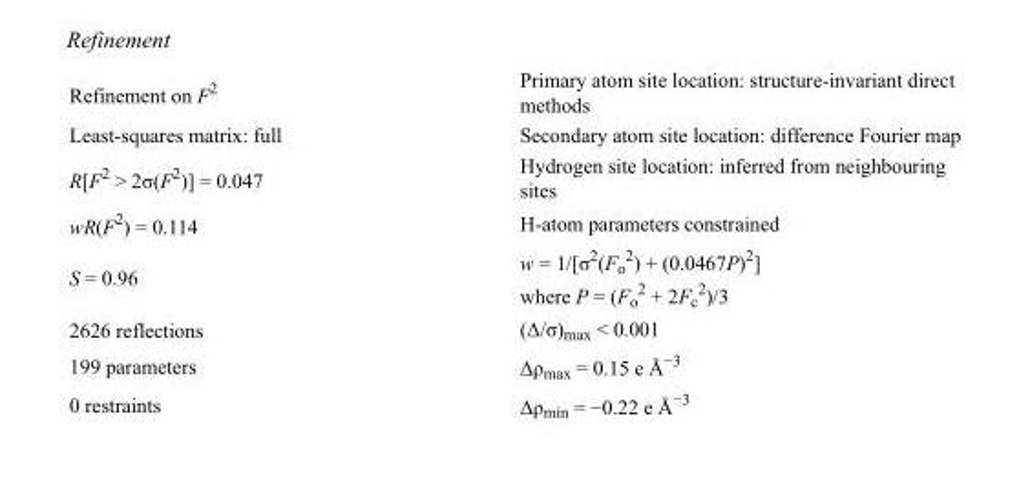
<table><tbody><tr><td>Refinement on F<sup>2</sup></td><td>Primary atom site location: structure-invariant direct methods</td></tr><tr><td>Least-squares matrix: full</td><td>Secondary atom site location: difference Fourier map</td></tr><tr><td>R[F<sup>2</sup> &gt; 2σ(F<sup>2</sup>)] = 0.047</td><td>Hydrogen site location: inferred from neighbouring sites</td></tr><tr><td>wR(F<sup>2</sup>) = 0.114</td><td>H-atom parameters constrained</td></tr><tr><td>S = 0.96</td><td>w = 1/[σ<sup>2</sup>(F<sub>o</sub> <sup>2</sup>) + (0.0467P)<sup>2</sup>] where P = (F<sub>o</sub> <sup>2</sup> + 2F<sub>c</sub> <sup>2</sup>)/3</td></tr><tr><td>2626 reflections</td><td>(Δ/σ)<sub>max</sub> &lt; 0.001</td></tr><tr><td>199 parameters</td><td>Δρ<sub>max</sub> = 0.15 e Å<sup>−3</sup></td></tr><tr><td>0 restraints</td><td>Δρ<sub>min</sub> = −0.22 e Å<sup>−3</sup></td></tr></tbody></table>